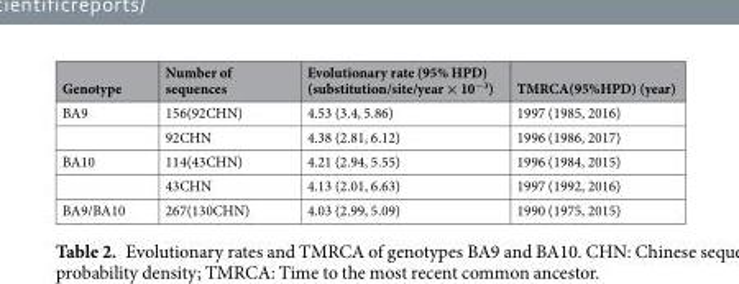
<table><thead><tr><td>Genotype</td><td>Number of sequences</td><td>Evolutionary rate (95% HPD) (substitution/site/year × 10<sup>−3</sup>)</td><td>TMRCA(95%HPD) (year)</td></tr></thead><tbody><tr><td rowspan="2">BA9</td><td>156(92CHN)</td><td>4.53 (3.4, 5.86)</td><td>1997 (1985, 2016)</td></tr><tr><td>92CHN</td><td>4.38 (2.81, 6.12)</td><td>1996 (1986, 2017)</td></tr><tr><td rowspan="2">BA10</td><td>114(43CHN)</td><td>4.21 (2.94, 5.55)</td><td>1996 (1984, 2015)</td></tr><tr><td>43CHN</td><td>4.13 (2.01, 6.63)</td><td>1997 (1992, 2016)</td></tr><tr><td>BA9/BA10</td><td>267(130CHN)</td><td>4.03 (2.99, 5.09)</td><td>1990 (1975, 2015)</td></tr></tbody></table>